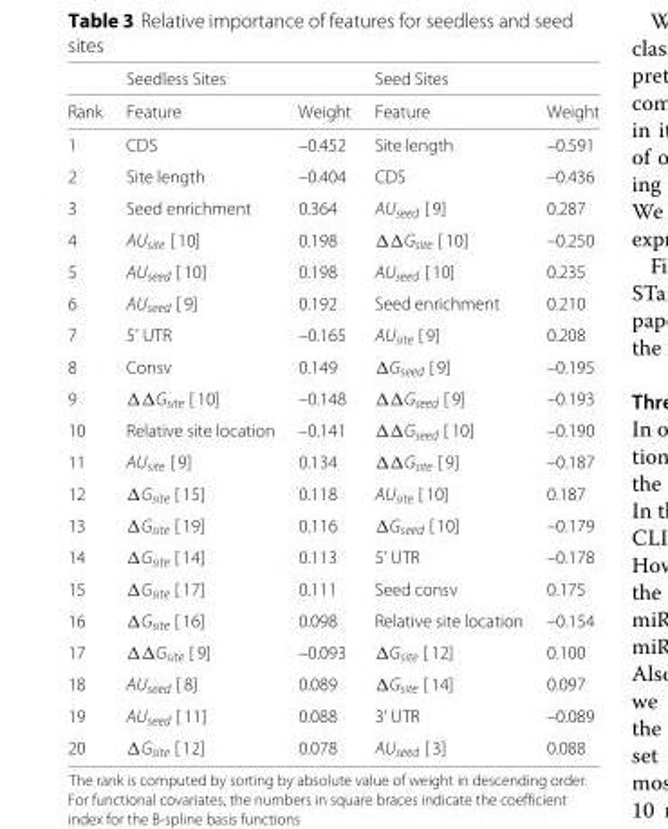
<table><thead><tr><td></td><td>Seedless Sites</td><td></td><td>Seed Sites</td><td></td></tr></thead><tbody><tr><td>Rank</td><td>Feature</td><td>Weight</td><td>Feature</td><td>Weight</td></tr><tr><td>1</td><td>CDS</td><td>–0.452</td><td>Site length</td><td>–0.591</td></tr><tr><td>2</td><td>Site length</td><td>–0.404</td><td>CDS</td><td>–0.436</td></tr><tr><td>3</td><td>Seed enrichment</td><td>0.364</td><td>AU<sub>seed</sub> [ 9]</td><td>0.287</td></tr><tr><td>4</td><td>AU<sub>site</sub> [ 10]</td><td>0.198</td><td>ΔΔG<sub>site</sub> [ 10]</td><td>–0.250</td></tr><tr><td>5</td><td>AU<sub>seed</sub> [ 10]</td><td>0.198</td><td>AU<sub>seed</sub> [ 10]</td><td>0.235</td></tr><tr><td>6</td><td>AU<sub>seed</sub> [ 9]</td><td>0.192</td><td>Seed enrichment</td><td>0.210</td></tr><tr><td>7</td><td>5’ UTR</td><td>–0.165</td><td>AU<sub>site</sub> [ 9]</td><td>0.208</td></tr><tr><td>8</td><td>Consv</td><td>0.149</td><td>ΔG<sub>seed</sub> [ 9]</td><td>–0.195</td></tr><tr><td>9</td><td>ΔΔG<sub>site</sub> [ 10]</td><td>–0.148</td><td>ΔΔG<sub>seed</sub> [ 9]</td><td>–0.193</td></tr><tr><td>10</td><td>Relative site location</td><td>–0.141</td><td>ΔΔG<sub>seed</sub> [ 10]</td><td>–0.190</td></tr><tr><td>11</td><td>AU<sub>site</sub> [ 9]</td><td>0.134</td><td>ΔΔG<sub>site</sub> [ 9]</td><td>–0.187</td></tr><tr><td>12</td><td>ΔG<sub>site</sub> [ 15]</td><td>0.118</td><td>AU<sub>site</sub> [ 10]</td><td>0.187</td></tr><tr><td>13</td><td>ΔG<sub>site</sub> [ 19]</td><td>0.116</td><td>ΔG<sub>seed</sub> [ 10]</td><td>–0.179</td></tr><tr><td>14</td><td>ΔG<sub>site</sub> [ 14]</td><td>0.113</td><td>5’ UTR</td><td>–0.178</td></tr><tr><td>15</td><td>ΔG<sub>site</sub> [ 17]</td><td>0.111</td><td>Seed consv</td><td>0.175</td></tr><tr><td>16</td><td>ΔG<sub>site</sub> [ 16]</td><td>0.098</td><td>Relative site location</td><td>–0.154</td></tr><tr><td>17</td><td>ΔΔG<sub>site</sub> [ 9]</td><td>–0.093</td><td>ΔG<sub>site</sub> [ 12]</td><td>0.100</td></tr><tr><td>18</td><td>AU<sub>seed</sub> [ 8]</td><td>0.089</td><td>ΔG<sub>site</sub> [ 14]</td><td>0.097</td></tr><tr><td>19</td><td>AU<sub>seed</sub> [ 11]</td><td>0.088</td><td>3’ UTR</td><td>–0.089</td></tr><tr><td>20</td><td>ΔG<sub>site</sub> [ 12]</td><td>0.078</td><td>AU<sub>seed</sub> [ 3]</td><td>0.088</td></tr></tbody></table>